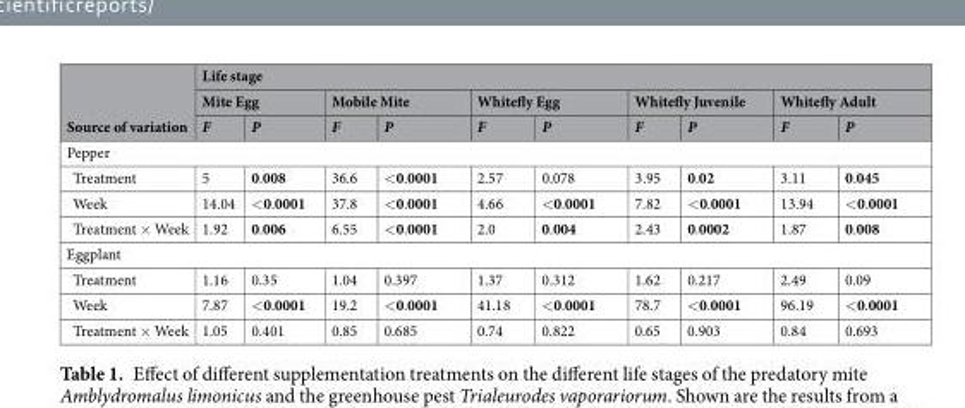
<table><thead><tr><td rowspan="3">Source of variation</td><td colspan="10">Life stage</td></tr><tr><td colspan="2">Mite Egg</td><td colspan="2">Mobile Mite</td><td colspan="2">Whitefly Egg</td><td colspan="2">Whitefly Juvenile</td><td colspan="2">Whitefly Adult</td></tr><tr><td>F</td><td>P</td><td>F</td><td>P</td><td>F</td><td>P</td><td>F</td><td>P</td><td>F</td><td>P</td></tr></thead><tbody><tr><td colspan="11">Pepper</td></tr><tr><td>Treatment</td><td>5</td><td>0.008</td><td>36.6</td><td>&lt;0.0001</td><td>2.57</td><td>0.078</td><td>3.95</td><td>0.02</td><td>3.11</td><td>0.045</td></tr><tr><td>Week</td><td>14.04</td><td>&lt;0.0001</td><td>37.8</td><td>&lt;0.0001</td><td>4.66</td><td>&lt;0.0001</td><td>7.82</td><td>&lt;0.0001</td><td>13.94</td><td>&lt;0.0001</td></tr><tr><td>Treatment × Week</td><td>1.92</td><td>0.006</td><td>6.55</td><td>&lt;0.0001</td><td>2.0</td><td>0.004</td><td>2.43</td><td>0.0002</td><td>1.87</td><td>0.008</td></tr><tr><td colspan="11">Eggplant</td></tr><tr><td>Treatment</td><td>1.16</td><td>0.35</td><td>1.04</td><td>0.397</td><td>1.37</td><td>0.312</td><td>1.62</td><td>0.217</td><td>2.49</td><td>0.09</td></tr><tr><td>Week</td><td>7.87</td><td>&lt;0.0001</td><td>19.2</td><td>&lt;0.0001</td><td>41.18</td><td>&lt;0.0001</td><td>78.7</td><td>&lt;0.0001</td><td>96.19</td><td>&lt;0.0001</td></tr><tr><td>Treatment × Week</td><td>1.05</td><td>0.401</td><td>0.85</td><td>0.685</td><td>0.74</td><td>0.822</td><td>0.65</td><td>0.903</td><td>0.84</td><td>0.693</td></tr></tbody></table>